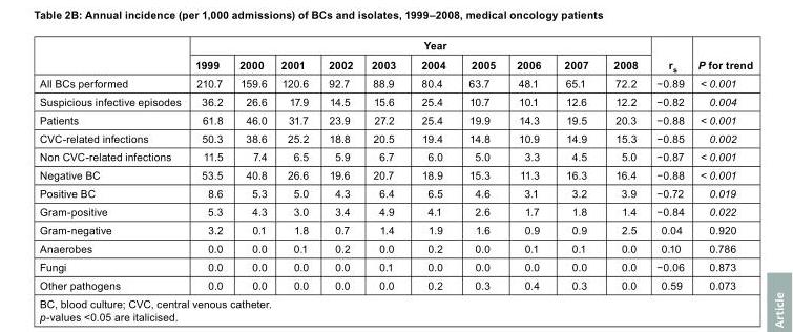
<table><thead><tr><td rowspan="2"></td><td colspan="10">Year</td><td rowspan="2">r<sub>s</sub></td><td rowspan="2">P for trend</td></tr><tr><td>1999</td><td>2000</td><td>2001</td><td>2002</td><td>2003</td><td>2004</td><td>2005</td><td>2006</td><td>2007</td><td>2008</td></tr></thead><tbody><tr><td>All BCs performed</td><td>210.7</td><td>159.6</td><td>120.6</td><td>92.7</td><td>88.9</td><td>80.4</td><td>63.7</td><td>48.1</td><td>65.1</td><td>72.2</td><td>−0.89</td><td>&lt; 0.001</td></tr><tr><td>Suspicious infective episodes</td><td>36.2</td><td>26.6</td><td>17.9</td><td>14.5</td><td>15.6</td><td>25.4</td><td>10.7</td><td>10.1</td><td>12.6</td><td>12.2</td><td>−0.82</td><td>0.004</td></tr><tr><td>Patients</td><td>61.8</td><td>46.0</td><td>31.7</td><td>23.9</td><td>27.2</td><td>25.4</td><td>19.9</td><td>14.3</td><td>19.5</td><td>20.3</td><td>−0.88</td><td>&lt; 0.001</td></tr><tr><td>CVC-related infections</td><td>50.3</td><td>38.6</td><td>25.2</td><td>18.8</td><td>20.5</td><td>19.4</td><td>14.8</td><td>10.9</td><td>14.9</td><td>15.3</td><td>−0.85</td><td>0.002</td></tr><tr><td>Non CVC-related infections</td><td>11.5</td><td>7.4</td><td>6.5</td><td>5.9</td><td>6.7</td><td>6.0</td><td>5.0</td><td>3.3</td><td>4.5</td><td>5.0</td><td>−0.87</td><td>&lt; 0.001</td></tr><tr><td>Negative BC</td><td>53.5</td><td>40.8</td><td>26.6</td><td>19.6</td><td>20.7</td><td>18.9</td><td>15.3</td><td>11.3</td><td>16.3</td><td>16.4</td><td>−0.88</td><td>&lt; 0.001</td></tr><tr><td>Positive BC</td><td>8.6</td><td>5.3</td><td>5.0</td><td>4.3</td><td>6.4</td><td>6.5</td><td>4.6</td><td>3.1</td><td>3.2</td><td>3.9</td><td>−0.72</td><td>0.019</td></tr><tr><td>Gram-positive</td><td>5.3</td><td>4.3</td><td>3.0</td><td>3.4</td><td>4.9</td><td>4.1</td><td>2.6</td><td>1.7</td><td>1.8</td><td>1.4</td><td>−0.84</td><td>0.022</td></tr><tr><td>Gram-negative</td><td>3.2</td><td>0.1</td><td>1.8</td><td>0.7</td><td>1.4</td><td>1.9</td><td>1.6</td><td>0.9</td><td>0.9</td><td>2.5</td><td>0.04</td><td>0.920</td></tr><tr><td>Anaerobes</td><td>0.0</td><td>0.0</td><td>0.1</td><td>0.2</td><td>0.0</td><td>0.2</td><td>0.0</td><td>0.1</td><td>0.1</td><td>0.0</td><td>0.10</td><td>0.786</td></tr><tr><td>Fungi</td><td>0.0</td><td>0.0</td><td>0.0</td><td>0.0</td><td>0.1</td><td>0.0</td><td>0.0</td><td>0.0</td><td>0.0</td><td>0.0</td><td>−0.06</td><td>0.873</td></tr><tr><td>Other pathogens</td><td>0.0</td><td>0.0</td><td>0.0</td><td>0.0</td><td>0.0</td><td>0.2</td><td>0.3</td><td>0.4</td><td>0.3</td><td>0.0</td><td>0.59</td><td>0.073</td></tr></tbody></table>